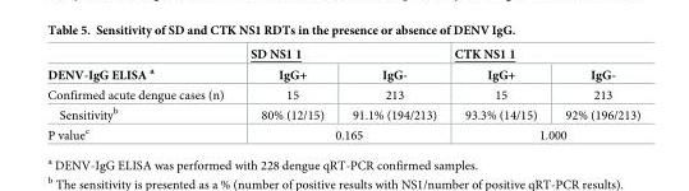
<table><thead><tr><td rowspan="2">DENV-IgG ELISA <sup>a</sup></td><td colspan="2">SD NS1 1</td><td colspan="2">CTK NS1 1</td></tr><tr><td>IgG+</td><td>IgG-</td><td>IgG+</td><td>IgG-</td></tr></thead><tbody><tr><td>Confirmed acute dengue cases (n)</td><td>15</td><td>213</td><td>15</td><td>213</td></tr><tr><td>Sensitivity<sup>b</sup></td><td>80% (12/15)</td><td>91.1% (194/213)</td><td>93.3% (14/15)</td><td>92% (196/213)</td></tr><tr><td>P value<sup>c</sup></td><td colspan="2">0.165</td><td colspan="2">1.000</td></tr></tbody></table>